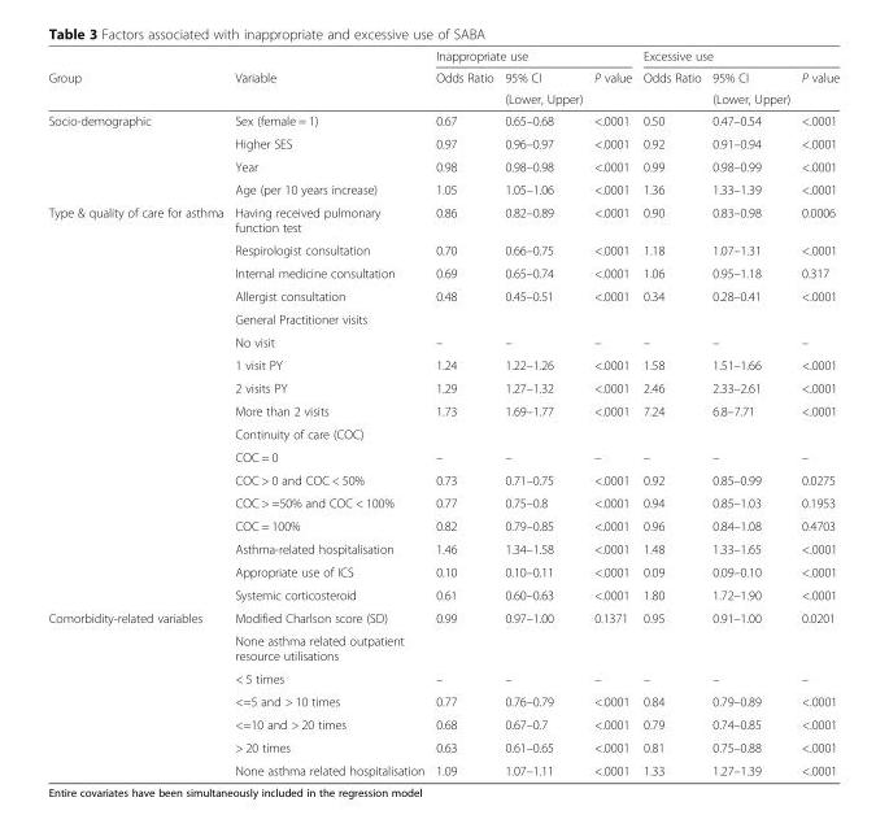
<table><thead><tr><td rowspan="3">Group</td><td rowspan="3">Variable</td><td colspan="3">Inappropriate use</td><td colspan="3">Excessive use</td></tr><tr><td rowspan="2">Odds Ratio</td><td rowspan="2">95% CI (Lower, Upper)</td><td rowspan="2">P value</td><td rowspan="2">Odds Ratio</td><td rowspan="2">95% CI (Lower, Upper)</td><td rowspan="2">P value</td></tr><tr></tr></thead><tbody><tr><td rowspan="4">Socio-demographic</td><td>Sex (female = 1)</td><td>0.67</td><td>0.65–0.68</td><td>&lt;.0001</td><td>0.50</td><td>0.47–0.54</td><td>&lt;.0001</td></tr><tr><td>Higher SES</td><td>0.97</td><td>0.96–0.97</td><td>&lt;.0001</td><td>0.92</td><td>0.91–0.94</td><td>&lt;.0001</td></tr><tr><td>Year</td><td>0.98</td><td>0.98–0.98</td><td>&lt;.0001</td><td>0.99</td><td>0.98–0.99</td><td>&lt;.0001</td></tr><tr><td>Age (per 10 years increase)</td><td>1.05</td><td>1.05–1.06</td><td>&lt;.0001</td><td>1.36</td><td>1.33–1.39</td><td>&lt;.0001</td></tr><tr><td rowspan="17">Type &amp; quality of care for asthma</td><td>Having received pulmonary function test</td><td>0.86</td><td>0.82–0.89</td><td>&lt;.0001</td><td>0.90</td><td>0.83–0.98</td><td>0.0006</td></tr><tr><td>Respirologist consultation</td><td>0.70</td><td>0.66–0.75</td><td>&lt;.0001</td><td>1.18</td><td>1.07–1.31</td><td>&lt;.0001</td></tr><tr><td>Internal medicine consultation</td><td>0.69</td><td>0.65–0.74</td><td>&lt;.0001</td><td>1.06</td><td>0.95–1.18</td><td>0.317</td></tr><tr><td>Allergist consultation</td><td>0.48</td><td>0.45–0.51</td><td>&lt;.0001</td><td>0.34</td><td>0.28–0.41</td><td>&lt;.0001</td></tr><tr><td>General Practitioner visits</td><td></td><td></td><td></td><td></td><td></td><td></td></tr><tr><td>No visit</td><td>–</td><td>–</td><td>–</td><td>–</td><td>–</td><td>–</td></tr><tr><td>1 visit PY</td><td>1.24</td><td>1.22–1.26</td><td>&lt;.0001</td><td>1.58</td><td>1.51–1.66</td><td>&lt;.0001</td></tr><tr><td>2 visits PY</td><td>1.29</td><td>1.27–1.32</td><td>&lt;.0001</td><td>2.46</td><td>2.33–2.61</td><td>&lt;.0001</td></tr><tr><td>More than 2 visits</td><td>1.73</td><td>1.69–1.77</td><td>&lt;.0001</td><td>7.24</td><td>6.8–7.71</td><td>&lt;.0001</td></tr><tr><td>Continuity of care (COC)</td><td></td><td></td><td></td><td></td><td></td><td></td></tr><tr><td>COC = 0</td><td>–</td><td>–</td><td>–</td><td>–</td><td>–</td><td>–</td></tr><tr><td>COC &gt; 0 and COC &lt; 50%</td><td>0.73</td><td>0.71–0.75</td><td>&lt;.0001</td><td>0.92</td><td>0.85–0.99</td><td>0.0275</td></tr><tr><td>COC &gt; =50% and COC &lt; 100%</td><td>0.77</td><td>0.75–0.8</td><td>&lt;.0001</td><td>0.94</td><td>0.85–1.03</td><td>0.1953</td></tr><tr><td>COC = 100%</td><td>0.82</td><td>0.79–0.85</td><td>&lt;.0001</td><td>0.96</td><td>0.84–1.08</td><td>0.4703</td></tr><tr><td>Asthma-related hospitalisation</td><td>1.46</td><td>1.34–1.58</td><td>&lt;.0001</td><td>1.48</td><td>1.33–1.65</td><td>&lt;.0001</td></tr><tr><td>Appropriate use of ICS</td><td>0.10</td><td>0.10–0.11</td><td>&lt;.0001</td><td>0.09</td><td>0.09–0.10</td><td>&lt;.0001</td></tr><tr><td>Systemic corticosteroid</td><td>0.61</td><td>0.60–0.63</td><td>&lt;.0001</td><td>1.80</td><td>1.72–1.90</td><td>&lt;.0001</td></tr><tr><td rowspan="7">Comorbidity-related variables</td><td>Modified Charlson score (SD)</td><td>0.99</td><td>0.97–1.00</td><td>0.1371</td><td>0.95</td><td>0.91–1.00</td><td>0.0201</td></tr><tr><td>None asthma related outpatient resource utilisations</td><td></td><td></td><td></td><td></td><td></td><td></td></tr><tr><td>&lt; 5 times</td><td>–</td><td>–</td><td>–</td><td>–</td><td>–</td><td>–</td></tr><tr><td>&lt;=5 and &gt; 10 times</td><td>0.77</td><td>0.76–0.79</td><td>&lt;.0001</td><td>0.84</td><td>0.79–0.89</td><td>&lt;.0001</td></tr><tr><td>&lt;=10 and &gt; 20 times</td><td>0.68</td><td>0.67–0.7</td><td>&lt;.0001</td><td>0.79</td><td>0.74–0.85</td><td>&lt;.0001</td></tr><tr><td>&gt; 20 times</td><td>0.63</td><td>0.61–0.65</td><td>&lt;.0001</td><td>0.81</td><td>0.75–0.88</td><td>&lt;.0001</td></tr><tr><td>None asthma related hospitalisation</td><td>1.09</td><td>1.07–1.11</td><td>&lt;.0001</td><td>1.33</td><td>1.27–1.39</td><td>&lt;.0001</td></tr></tbody></table>